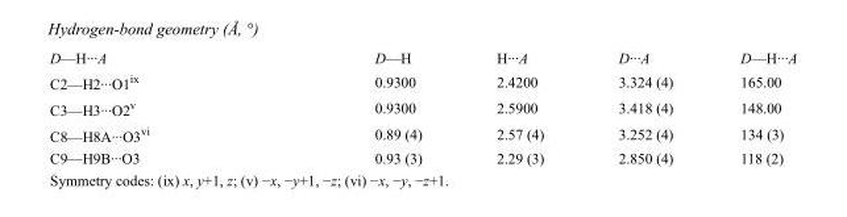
<table><tbody><tr><td>D—H···A</td><td>D—H</td><td>H···A</td><td>D···A</td><td>D—H···A</td></tr><tr><td>C2—H2···O1<sup>ix</sup></td><td>0.9300</td><td>2.4200</td><td>3.324 (4)</td><td>165.00</td></tr><tr><td>C3—H3···O2<sup>v</sup></td><td>0.9300</td><td>2.5900</td><td>3.418 (4)</td><td>148.00</td></tr><tr><td>C8—H8A···O3<sup>vi</sup></td><td>0.89 (4)</td><td>2.57 (4)</td><td>3.252 (4)</td><td>134 (3)</td></tr><tr><td>C9—H9B···O3</td><td>0.93 (3)</td><td>2.29 (3)</td><td>2.850 (4)</td><td>118 (2)</td></tr></tbody></table>